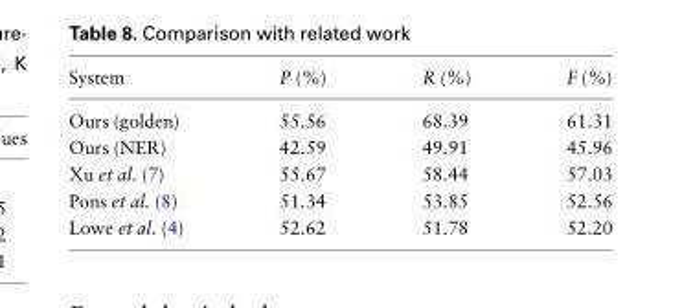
<table><thead><tr><td>System</td><td>P (%)</td><td>R (%)</td><td>F (%)</td></tr></thead><tbody><tr><td>Ours (golden)</td><td>55.56</td><td>68.39</td><td>61.31</td></tr><tr><td>Ours (NER)</td><td>42.59</td><td>49.91</td><td>45.96</td></tr><tr><td>Xu et al. (7)</td><td>55.67</td><td>58.44</td><td>57.03</td></tr><tr><td>Pons et al. (8)</td><td>51.34</td><td>53.85</td><td>52.56</td></tr><tr><td>Lowe et al. (4)</td><td>52.62</td><td>51.78</td><td>52.20</td></tr></tbody></table>